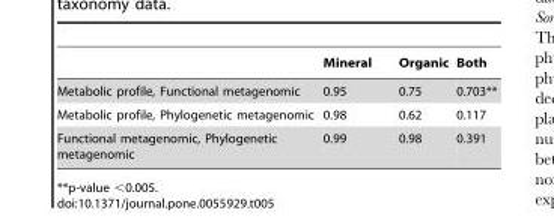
<table><thead><tr><td></td><td>Mineral</td><td>Organic</td><td>Both</td></tr></thead><tbody><tr><td>Metabolic profile, Functional metagenomic</td><td>0.95</td><td>0.75</td><td>0.703**</td></tr><tr><td>Metabolic profile, Phylogenetic metagenomic</td><td>0.98</td><td>0.62</td><td>0.117</td></tr><tr><td>Functional metagenomic, Phylogenetic metagenomic</td><td>0.99</td><td>0.98</td><td>0.391</td></tr></tbody></table>